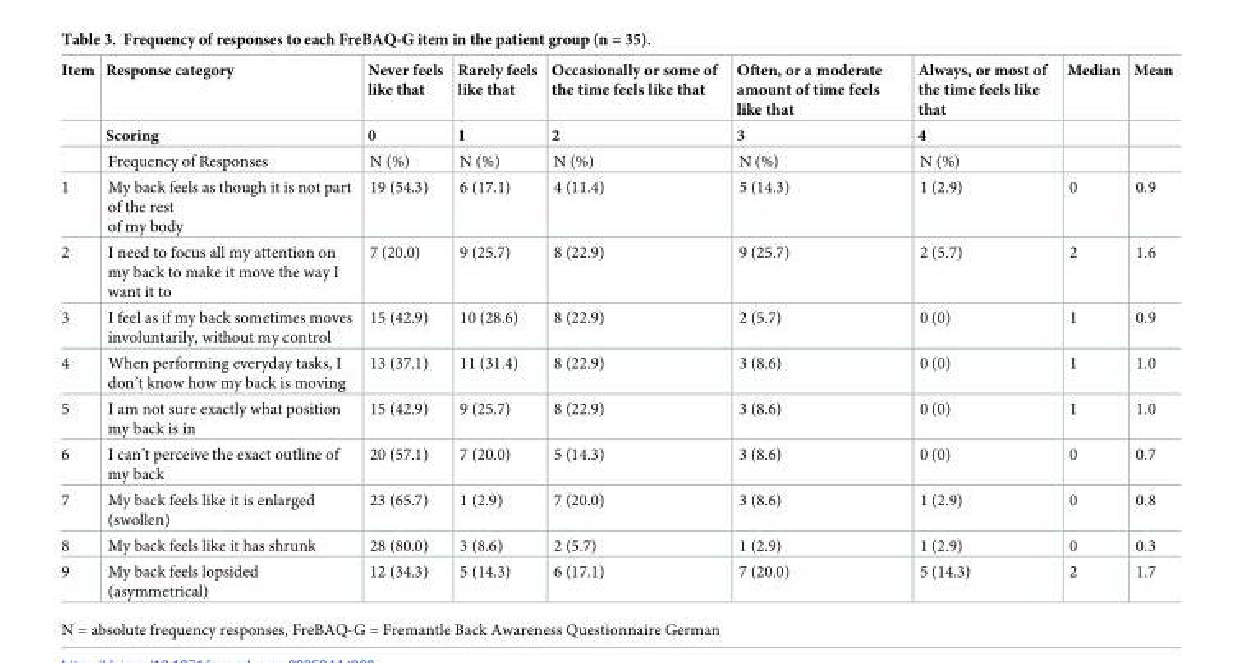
<table><thead><tr><td rowspan="2">Item</td><td rowspan="2">Response category Scoring</td><td rowspan="2">Never feels like that 0</td><td rowspan="2">Rarely feels like that 1</td><td rowspan="2">Occasionally or some of the time feels like that 2</td><td rowspan="2">Often, or a moderate amount of time feels like that 3</td><td rowspan="2">Always, or most of the time feels like that 4</td><td rowspan="2">Median</td><td rowspan="2">Mean</td></tr><tr></tr></thead><tbody><tr><td></td><td>Frequency of Responses</td><td>N (%)</td><td>N (%)</td><td>N (%)</td><td>N (%)</td><td>N (%)</td><td></td><td></td></tr><tr><td>1</td><td>My back feels as though it is not part of the rest of my body</td><td>19 (54.3)</td><td>6 (17.1)</td><td>4 (11.4)</td><td>5 (14.3)</td><td>1 (2.9)</td><td>0</td><td>0.9</td></tr><tr><td>2</td><td>I need to focus all my attention on my back to make it move the way I want it to</td><td>7 (20.0)</td><td>9 (25.7)</td><td>8 (22.9)</td><td>9 (25.7)</td><td>2 (5.7)</td><td>2</td><td>1.6</td></tr><tr><td>3</td><td>I feel as if my back sometimes moves involuntarily, without my control</td><td>15 (42.9)</td><td>10 (28.6)</td><td>8 (22.9)</td><td>2 (5.7)</td><td>0 (0)</td><td>1</td><td>0.9</td></tr><tr><td>4</td><td>When performing everyday tasks, I don’t know how my back is moving</td><td>13 (37.1)</td><td>11 (31.4)</td><td>8 (22.9)</td><td>3 (8.6)</td><td>0 (0)</td><td>1</td><td>1.0</td></tr><tr><td>5</td><td>I am not sure exactly what position my back is in</td><td>15 (42.9)</td><td>9 (25.7)</td><td>8 (22.9)</td><td>3 (8.6)</td><td>0 (0)</td><td>1</td><td>1.0</td></tr><tr><td>6</td><td>I can’t perceive the exact outline of my back</td><td>20 (57.1)</td><td>7 (20.0)</td><td>5 (14.3)</td><td>3 (8.6)</td><td>0 (0)</td><td>0</td><td>0.7</td></tr><tr><td>7</td><td>My back feels like it is enlarged (swollen)</td><td>23 (65.7)</td><td>1 (2.9)</td><td>7 (20.0)</td><td>3 (8.6)</td><td>1 (2.9)</td><td>0</td><td>0.8</td></tr><tr><td>8</td><td>My back feels like it has shrunk</td><td>28 (80.0)</td><td>3 (8.6)</td><td>2 (5.7)</td><td>1 (2.9)</td><td>1 (2.9)</td><td>0</td><td>0.3</td></tr><tr><td>9</td><td>My back feels lopsided (asymmetrical)</td><td>12 (34.3)</td><td>5 (14.3)</td><td>6 (17.1)</td><td>7 (20.0)</td><td>5 (14.3)</td><td>2</td><td>1.7</td></tr></tbody></table>